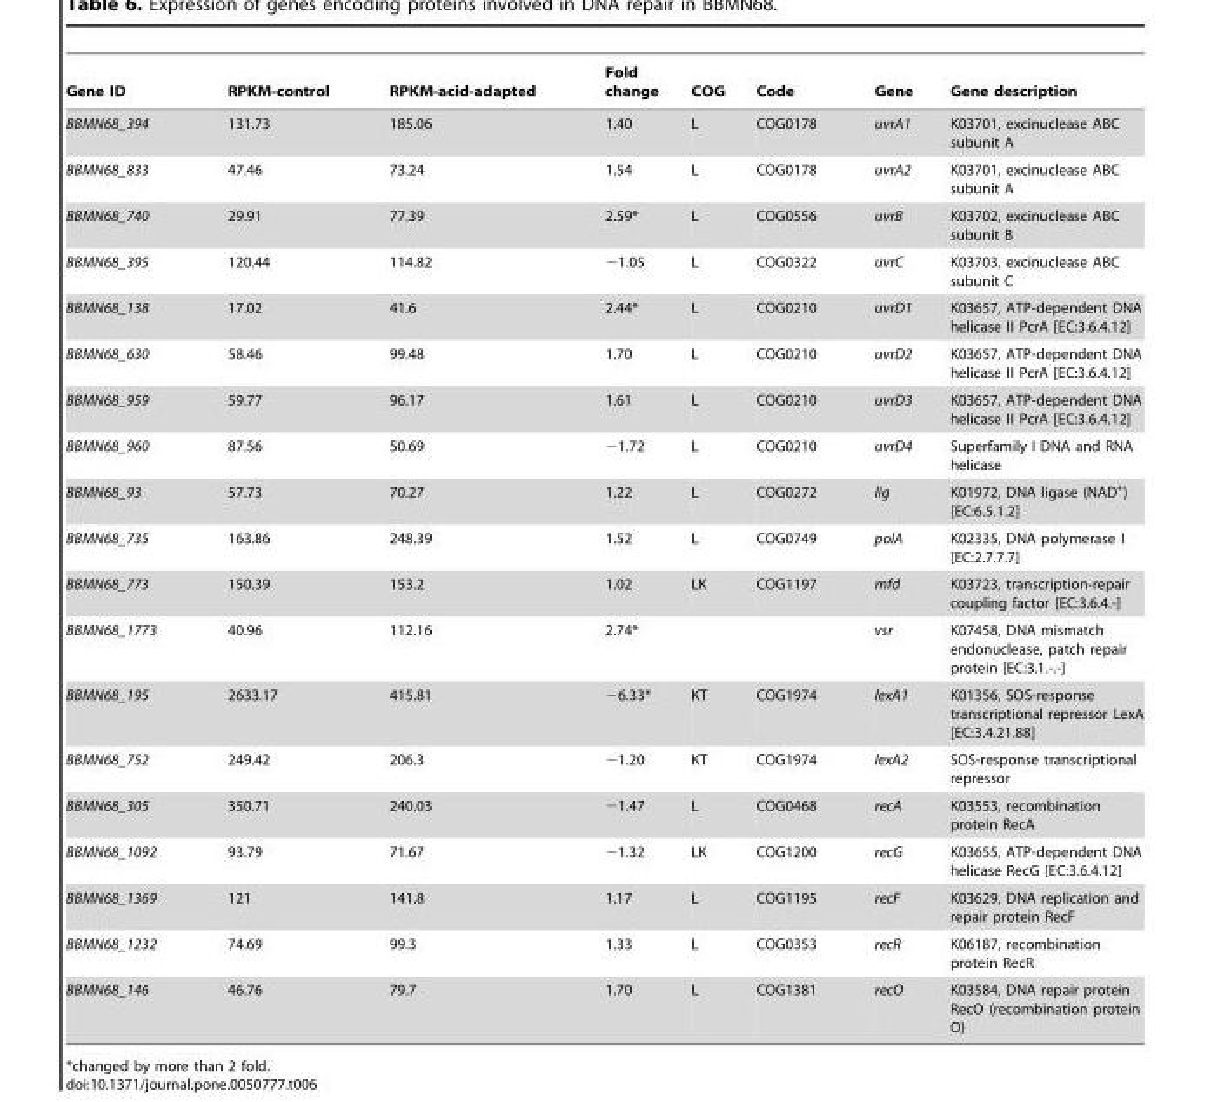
<table><thead><tr><td>Gene ID</td><td>RPKM-control</td><td>RPKM-acid-adapted</td><td>Fold change</td><td>COG</td><td>Code</td><td>Gene</td><td>Gene description</td></tr></thead><tbody><tr><td>BBMN68_394</td><td>131.73</td><td>185.06</td><td>1.40</td><td>L</td><td>COG0178</td><td>uvrA1</td><td>K03701, excinuclease ABC subunit A</td></tr><tr><td>BBMN68_833</td><td>47.46</td><td>73.24</td><td>1.54</td><td>L</td><td>COG0178</td><td>uvrA2</td><td>K03701, excinuclease ABC subunit A</td></tr><tr><td>BBMN68_740</td><td>29.91</td><td>77.39</td><td>2.59*</td><td>L</td><td>COG0556</td><td>uvrB</td><td>K03702, excinuclease ABC subunit B</td></tr><tr><td>BBMN68_395</td><td>120.44</td><td>114.82</td><td>−1.05</td><td>L</td><td>COG0322</td><td>uvrC</td><td>K03703, excinuclease ABC subunit C</td></tr><tr><td>BBMN68_138</td><td>17.02</td><td>41.6</td><td>2.44*</td><td>L</td><td>COG0210</td><td>uvrD1</td><td>K03657, ATP-dependent DNA helicase II PcrA [EC:3.6.4.12]</td></tr><tr><td>BBMN68_630</td><td>58.46</td><td>99.48</td><td>1.70</td><td>L</td><td>COG0210</td><td>uvrD2</td><td>K03657, ATP-dependent DNA helicase II PcrA [EC:3.6.4.12]</td></tr><tr><td>BBMN68_959</td><td>59.77</td><td>96.17</td><td>1.61</td><td>L</td><td>COG0210</td><td>uvrD3</td><td>K03657, ATP-dependent DNA helicase II PcrA [EC:3.6.4.12]</td></tr><tr><td>BBMN68_960</td><td>87.56</td><td>50.69</td><td>−1.72</td><td>L</td><td>COG0210</td><td>uvrD4</td><td>Superfamily I DNA and RNA helicase</td></tr><tr><td>BBMN68_93</td><td>57.73</td><td>70.27</td><td>1.22</td><td>L</td><td>COG0272</td><td>lig</td><td>K01972, DNA ligase (NAD<sup>+</sup>) [EC:6.5.1.2]</td></tr><tr><td>BBMN68_735</td><td>163.86</td><td>248.39</td><td>1.52</td><td>L</td><td>COG0749</td><td>polA</td><td>K02335, DNA polymerase I [EC:2.7.7.7]</td></tr><tr><td>BBMN68_773</td><td>150.39</td><td>153.2</td><td>1.02</td><td>LK</td><td>COG1197</td><td>mfd</td><td>K03723, transcription-repair coupling factor [EC:3.6.4.-]</td></tr><tr><td>BBMN68_1773</td><td>40.96</td><td>112.16</td><td>2.74*</td><td></td><td></td><td>vsr</td><td>K07458, DNA mismatch endonuclease, patch repair protein [EC:3.1.-.-]</td></tr><tr><td>BBMN68_195</td><td>2633.17</td><td>415.81</td><td>−6.33*</td><td>KT</td><td>COG1974</td><td>lexA1</td><td>K01356, SOS-response transcriptional repressor LexA [EC:3.4.21.88]</td></tr><tr><td>BBMN68_752</td><td>249.42</td><td>206.3</td><td>−1.20</td><td>KT</td><td>COG1974</td><td>lexA2</td><td>SOS-response transcriptional repressor</td></tr><tr><td>BBMN68_305</td><td>350.71</td><td>240.03</td><td>−1.47</td><td>L</td><td>COG0468</td><td>recA</td><td>K03553, recombination protein RecA</td></tr><tr><td>BBMN68_1092</td><td>93.79</td><td>71.67</td><td>−1.32</td><td>LK</td><td>COG1200</td><td>recG</td><td>K03655, ATP-dependent DNA helicase RecG [EC:3.6.4.12]</td></tr><tr><td>BBMN68_1369</td><td>121</td><td>141.8</td><td>1.17</td><td>L</td><td>COG1195</td><td>recF</td><td>K03629, DNA replication and repair protein RecF</td></tr><tr><td>BBMN68_1232</td><td>74.69</td><td>99.3</td><td>1.33</td><td>L</td><td>COG0353</td><td>recR</td><td>K06187, recombination protein RecR</td></tr><tr><td>BBMN68_146</td><td>46.76</td><td>79.7</td><td>1.70</td><td>L</td><td>COG1381</td><td>recO</td><td>K03584, DNA repair protein RecO (recombination protein O)</td></tr></tbody></table>